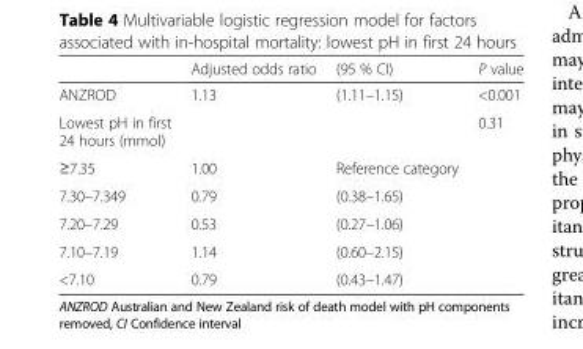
<table><thead><tr><td></td><td>Adjusted odds ratio</td><td>(95 % CI)</td><td>P value</td></tr></thead><tbody><tr><td>ANZROD</td><td>1.13</td><td>(1.11–1.15)</td><td>&lt;0.001</td></tr><tr><td>Lowest pH in first 24 hours (mmol)</td><td></td><td></td><td>0.31</td></tr><tr><td>≥7.35</td><td>1.00</td><td>Reference category</td><td></td></tr><tr><td>7.30–7.349</td><td>0.79</td><td>(0.38–1.65)</td><td></td></tr><tr><td>7.20–7.29</td><td>0.53</td><td>(0.27–1.06)</td><td></td></tr><tr><td>7.10–7.19</td><td>1.14</td><td>(0.60–2.15)</td><td></td></tr><tr><td>&lt;7.10</td><td>0.79</td><td>(0.43–1.47)</td><td></td></tr></tbody></table>